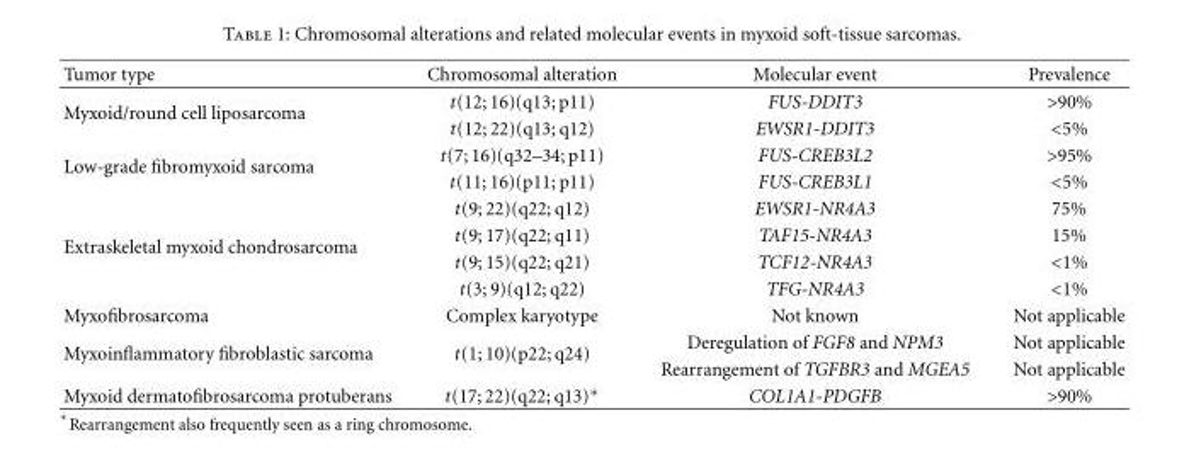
<table><thead><tr><td>Tumor type</td><td>Chromosomal alteration</td><td>Molecular event</td><td>Prevalence</td></tr></thead><tbody><tr><td rowspan="2">Myxoid/round cell liposarcoma</td><td>t(12; 16)(q13; p11)</td><td>FUS-DDIT3</td><td>&gt;90%</td></tr><tr><td>t(12; 22)(q13; q12)</td><td>EWSR1-DDIT3</td><td>&lt;5%</td></tr><tr><td rowspan="2">Low-grade fibromyxoid sarcoma</td><td>t(7; 16)(q32–34; p11)</td><td>FUS-CREB3L2</td><td>&gt;95%</td></tr><tr><td>t(11; 16)(p11; p11)</td><td>FUS-CREB3L1</td><td>&lt;5%</td></tr><tr><td rowspan="4">Extraskeletal myxoid chondrosarcoma</td><td>t(9; 22)(q22; q12)</td><td>EWSR1-NR4A3</td><td>75%</td></tr><tr><td>t(9; 17)(q22; q11)</td><td>TAF15-NR4A3</td><td>15%</td></tr><tr><td>t(9; 15)(q22; q21)</td><td>TCF12-NR4A3</td><td>&lt;1%</td></tr><tr><td>t(3; 9)(q12; q22)</td><td>TFG-NR4A3</td><td>&lt;1%</td></tr><tr><td>Myxofibrosarcoma</td><td>Complex karyotype</td><td>Not known</td><td>Not applicable</td></tr><tr><td rowspan="2">Myxoinflammatory fibroblastic sarcoma</td><td rowspan="2">t(1; 10)(p22; q24)</td><td>Deregulation of FGF8 and NPM3</td><td>Not applicable</td></tr><tr><td>Rearrangement of TGFBR3 and MGEA5</td><td>Not applicable</td></tr><tr><td>Myxoid dermatofibrosarcoma protuberans</td><td>t(17; 22)(q22; q13)∗</td><td>COL1A1-PDGFB</td><td>&gt;90%</td></tr></tbody></table>